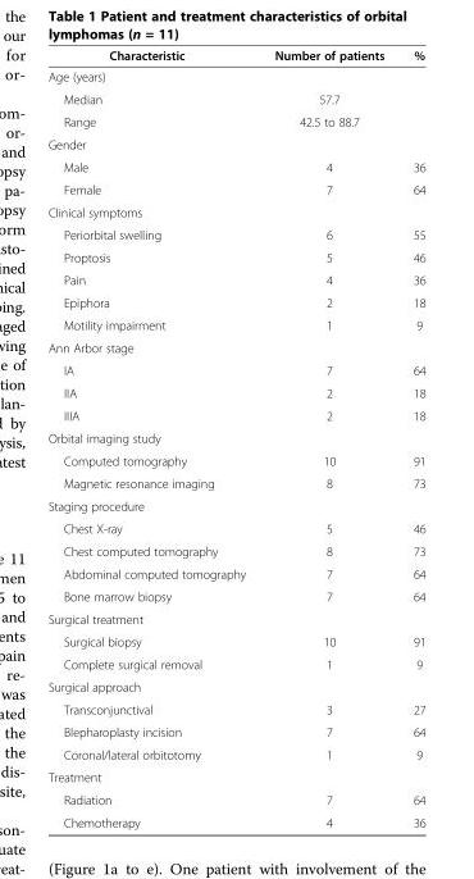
<table><thead><tr><td>Characteristic</td><td>Number of patients</td><td>%</td></tr></thead><tbody><tr><td colspan="3">Age (years)</td></tr><tr><td>Median</td><td>57.7</td><td></td></tr><tr><td>Range</td><td>42.5 to 88.7</td><td></td></tr><tr><td colspan="3">Gender</td></tr><tr><td>Male</td><td>4</td><td>36</td></tr><tr><td>Female</td><td>7</td><td>64</td></tr><tr><td colspan="3">Clinical symptoms</td></tr><tr><td>Periorbital swelling</td><td>6</td><td>55</td></tr><tr><td>Proptosis</td><td>5</td><td>46</td></tr><tr><td>Pain</td><td>4</td><td>36</td></tr><tr><td>Epiphora</td><td>2</td><td>18</td></tr><tr><td>Motility impairment</td><td>1</td><td>9</td></tr><tr><td colspan="3">Ann Arbor stage</td></tr><tr><td>IA</td><td>7</td><td>64</td></tr><tr><td>IIA</td><td>2</td><td>18</td></tr><tr><td>IIIA</td><td>2</td><td>18</td></tr><tr><td colspan="3">Orbital imaging study</td></tr><tr><td>Computed tomography</td><td>10</td><td>91</td></tr><tr><td>Magnetic resonance imaging</td><td>8</td><td>73</td></tr><tr><td colspan="3">Staging procedure</td></tr><tr><td>Chest X-ray</td><td>5</td><td>46</td></tr><tr><td>Chest computed tomography</td><td>8</td><td>73</td></tr><tr><td>Abdominal computed tomography</td><td>7</td><td>64</td></tr><tr><td>Bone marrow biopsy</td><td>7</td><td>64</td></tr><tr><td colspan="3">Surgical treatment</td></tr><tr><td>Surgical biopsy</td><td>10</td><td>91</td></tr><tr><td>Complete surgical removal</td><td>1</td><td>9</td></tr><tr><td colspan="3">Surgical approach</td></tr><tr><td>Transconjunctival</td><td>3</td><td>27</td></tr><tr><td>Blepharoplasty incision</td><td>7</td><td>64</td></tr><tr><td>Coronal/lateral orbitotomy</td><td>1</td><td>9</td></tr><tr><td colspan="3">Treatment</td></tr><tr><td>Radiation</td><td>7</td><td>64</td></tr><tr><td>Chemotherapy</td><td>4</td><td>36</td></tr></tbody></table>